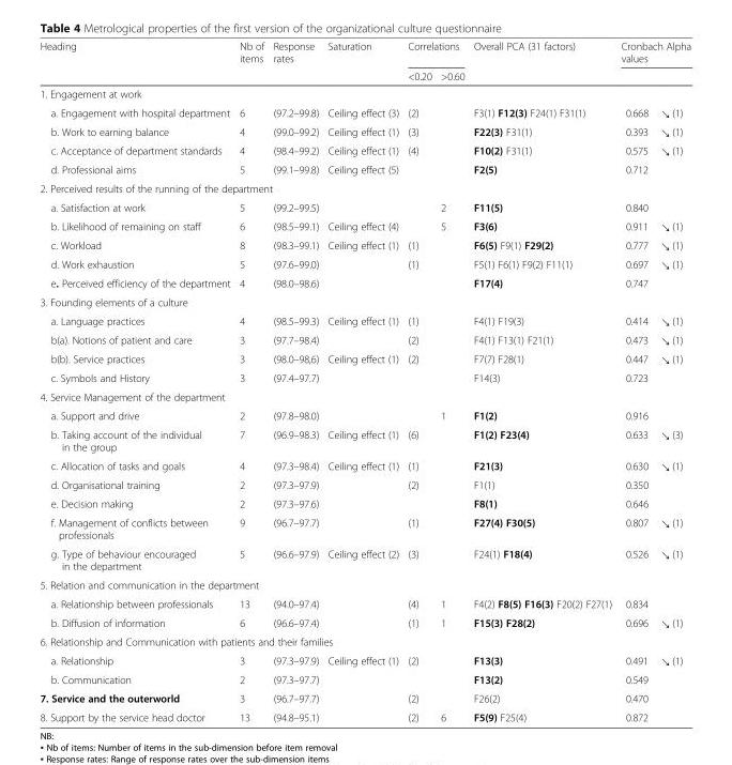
<table><thead><tr><td rowspan="2">Heading</td><td rowspan="2">Nb of items</td><td rowspan="2">Response rates</td><td rowspan="2">Saturation</td><td colspan="2">Correlations</td><td rowspan="2">Overall PCA (31 factors)</td><td colspan="2">Cronbach Alpha values</td></tr><tr><td>&lt;0.20</td><td>&gt;0.60</td><td></td><td></td></tr></thead><tbody><tr><td colspan="9">1. Engagement at work</td></tr><tr><td>a. Engagement with hospital department</td><td>6</td><td>(97.2–99.8)</td><td>Ceiling effect (3)</td><td>(2)</td><td></td><td>F3(1) F12(3) F24(1) F31(1)</td><td>0.668</td><td>↘ (1)</td></tr><tr><td>b. Work to earning balance</td><td>4</td><td>(99.0–99.2)</td><td>Ceiling effect (1)</td><td>(3)</td><td></td><td>F22(3) F31(1)</td><td>0.393</td><td>↘ (1)</td></tr><tr><td>c. Acceptance of department standards</td><td>4</td><td>(98.4–99.2)</td><td>Ceiling effect (1)</td><td>(4)</td><td></td><td>F10(2) F31(1)</td><td>0.575</td><td>↘ (1)</td></tr><tr><td>d. Professional aims</td><td>5</td><td>(99.1–99.8)</td><td>Ceiling effect (5)</td><td></td><td></td><td>F2(5)</td><td>0.712</td><td></td></tr><tr><td colspan="9">2. Perceived results of the running of the department</td></tr><tr><td>a. Satisfaction at work</td><td>5</td><td>(99.2–99.5)</td><td></td><td></td><td>2</td><td>F11(5)</td><td>0.840</td><td></td></tr><tr><td>b. Likelihood of remaining on staff</td><td>6</td><td>(98.5–99.1)</td><td>Ceiling effect (4)</td><td></td><td>5</td><td>F3(6)</td><td>0.911</td><td>↘ (1)</td></tr><tr><td>c. Workload</td><td>8</td><td>(98.3–99.1)</td><td>Ceiling effect (1)</td><td>(1)</td><td></td><td>F6(5) F9(1) F29(2)</td><td>0.777</td><td>↘ (1)</td></tr><tr><td>d. Work exhaustion</td><td>5</td><td>(97.6–99.0)</td><td></td><td>(1)</td><td></td><td>F5(1) F6(1) F9(2) F11(1)</td><td>0.697</td><td>↘ (1)</td></tr><tr><td>e. Perceived efficiency of the department</td><td>4</td><td>(98.0–98.6)</td><td></td><td></td><td></td><td>F17(4)</td><td>0.747</td><td></td></tr><tr><td colspan="9">3. Founding elements of a culture</td></tr><tr><td>a. Language practices</td><td>4</td><td>(98.5–99.3)</td><td>Ceiling effect (1)</td><td>(1)</td><td></td><td>F4(1) F19(3)</td><td>0.414</td><td>↘ (1)</td></tr><tr><td>b(a). Notions of patient and care</td><td>3</td><td>(97.7–98.4)</td><td></td><td>(2)</td><td></td><td>F4(1) F13(1) F21(1)</td><td>0.473</td><td>↘ (1)</td></tr><tr><td>b(b). Service practices</td><td>3</td><td>(98.0–98,6)</td><td>Ceiling effect (1)</td><td>(2)</td><td></td><td>F7(7) F28(1)</td><td>0.447</td><td>↘ (1)</td></tr><tr><td>c. Symbols and History</td><td>3</td><td>(97.4–97.7)</td><td></td><td></td><td></td><td>F14(3)</td><td>0.723</td><td></td></tr><tr><td colspan="9">4. Service Management of the department</td></tr><tr><td>a. Support and drive</td><td>2</td><td>(97.8–98.0)</td><td></td><td></td><td>1</td><td>F1(2)</td><td>0.916</td><td></td></tr><tr><td>b. Taking account of the individual in the group</td><td>7</td><td>(96.9–98.3)</td><td>Ceiling effect (1)</td><td>(6)</td><td></td><td>F1(2) F23(4)</td><td>0.633</td><td>↘ (3)</td></tr><tr><td>c. Allocation of tasks and goals</td><td>4</td><td>(97.3–98.4)</td><td>Ceiling effect (1)</td><td>(1)</td><td></td><td>F21(3)</td><td>0.630</td><td>↘ (1)</td></tr><tr><td>d. Organisational training</td><td>2</td><td>(97.3–97.9)</td><td></td><td>(2)</td><td></td><td>F1(1)</td><td>0.350</td><td></td></tr><tr><td>e. Decision making</td><td>2</td><td>(97.3–97.6)</td><td></td><td></td><td></td><td>F8(1)</td><td>0.646</td><td></td></tr><tr><td>f. Management of conflicts between professionals</td><td>9</td><td>(96.7–97.7)</td><td></td><td>(1)</td><td></td><td>F27(4) F30(5)</td><td>0.807</td><td>↘ (1)</td></tr><tr><td>g. Type of behaviour encouraged in the department</td><td>5</td><td>(96.6–97.9)</td><td>Ceiling effect (2)</td><td>(3)</td><td></td><td>F24(1) F18(4)</td><td>0.526</td><td>↘ (1)</td></tr><tr><td colspan="9">5. Relation and communication in the department</td></tr><tr><td>a. Relationship between professionals</td><td>13</td><td>(94.0–97.4)</td><td></td><td>(4)</td><td>1</td><td>F4(2) F8(5) F16(3) F20(2) F27(1)</td><td>0.834</td><td></td></tr><tr><td>b. Diffusion of information</td><td>6</td><td>(96.6–97.4)</td><td></td><td>(1)</td><td>1</td><td>F15(3) F28(2)</td><td>0.696</td><td>↘ (1)</td></tr><tr><td colspan="9">6. Relationship and Communication with patients and their families</td></tr><tr><td>a. Relationship</td><td>3</td><td>(97.3–97.9)</td><td>Ceiling effect (1)</td><td>(2)</td><td></td><td>F13(3)</td><td>0.491</td><td>↘ (1)</td></tr><tr><td>b. Communication</td><td>2</td><td>(97.3–97.7)</td><td></td><td></td><td></td><td>F13(2)</td><td>0.549</td><td></td></tr><tr><td>7. Service and the outerworld</td><td>3</td><td>(96.7–97.7)</td><td></td><td>(2)</td><td></td><td>F26(2)</td><td>0.470</td><td></td></tr><tr><td>8. Support by the service head doctor</td><td>13</td><td>(94.8–95.1)</td><td></td><td>(2)</td><td>6</td><td>F5(9) F25(4)</td><td>0.872</td><td></td></tr></tbody></table>